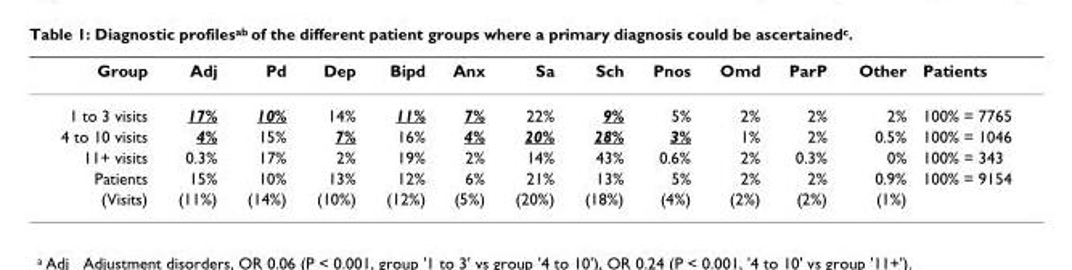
<table><thead><tr><td>Group</td><td>Adj</td><td>Pd</td><td>Dep</td><td>Bipd</td><td>Anx</td><td>Sa</td><td>Sch</td><td>Pnos</td><td>Omd</td><td>ParP</td><td>Other</td><td>Patients</td></tr></thead><tbody><tr><td>1 to 3 visits</td><td>17%</td><td>10%</td><td>14%</td><td>11%</td><td>7%</td><td>22%</td><td>9%</td><td>5%</td><td>2%</td><td>2%</td><td>2%</td><td>100% = 7765</td></tr><tr><td>4 to 10 visits</td><td>4%</td><td>15%</td><td>7%</td><td>16%</td><td>4%</td><td>20%</td><td>28%</td><td>3%</td><td>1%</td><td>2%</td><td>0.5%</td><td>100% = 1046</td></tr><tr><td>11+ visits</td><td>0.3%</td><td>17%</td><td>2%</td><td>19%</td><td>2%</td><td>14%</td><td>43%</td><td>0.6%</td><td>2%</td><td>0.3%</td><td>0%</td><td>100% = 343</td></tr><tr><td>Patients</td><td>15%</td><td>10%</td><td>13%</td><td>12%</td><td>6%</td><td>21%</td><td>13%</td><td>5%</td><td>2%</td><td>2%</td><td>0.9%</td><td>100% = 9154</td></tr><tr><td>(Visits)</td><td>(11%)</td><td>(14%)</td><td>(10%)</td><td>(12%)</td><td>(5%)</td><td>(20%)</td><td>(18%)</td><td>(4%)</td><td>(2%)</td><td>(2%)</td><td>(1%)</td><td></td></tr></tbody></table>